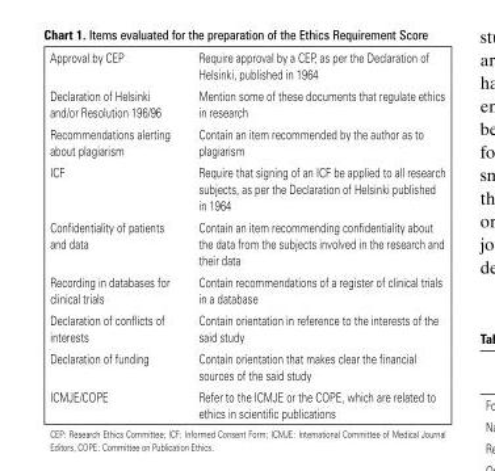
<table><thead><tr><td>Approval by CEP</td><td>Require approval by a CEP, as per the Declaration of Helsinki, published in 1964</td></tr></thead><tbody><tr><td>Declaration of Helsinki and/or Resolution 196/96</td><td>Mention some of these documents that regulate ethics in research</td></tr><tr><td>Recommendations alerting about plagiarism</td><td>Contain an item recommended by the author as to plagiarism</td></tr><tr><td>ICF</td><td>Require that signing of an ICF be applied to all research subjects, as per the Declaration of Helsinki published in 1964</td></tr><tr><td>Confidentiality of patients and data</td><td>Contain an item recommending confidentiality about the data from the subjects involved in the research and their data</td></tr><tr><td>Recording in databases for clinical trials</td><td>Contain recommendations of a register of clinical trials in a database</td></tr><tr><td>Declaration of conflicts of interests</td><td>Contain orientation in reference to the interests of the said study</td></tr><tr><td>Declaration of funding</td><td>Contain orientation that makes clear the financial sources of the said study</td></tr><tr><td>ICMJE/COPE</td><td>Refer to the ICMJE or the COPE, which are related to ethics in scientific publications</td></tr></tbody></table>